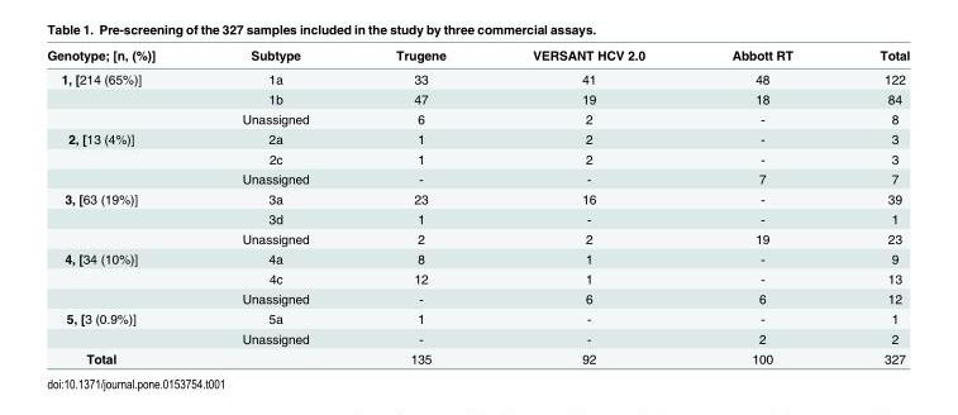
<table><thead><tr><td>Genotype; [n, (%)]</td><td>Subtype</td><td>Trugene</td><td>VERSANT HCV 2.0</td><td>Abbott RT</td><td>Total</td></tr></thead><tbody><tr><td rowspan="3">1, [214 (65%)]</td><td>1a</td><td>33</td><td>41</td><td>48</td><td>122</td></tr><tr><td>1b</td><td>47</td><td>19</td><td>18</td><td>84</td></tr><tr><td>Unassigned</td><td>6</td><td>2</td><td>-</td><td>8</td></tr><tr><td rowspan="3">2, [13 (4%)]</td><td>2a</td><td>1</td><td>2</td><td>-</td><td>3</td></tr><tr><td>2c</td><td>1</td><td>2</td><td>-</td><td>3</td></tr><tr><td>Unassigned</td><td>-</td><td>-</td><td>7</td><td>7</td></tr><tr><td rowspan="3">3, [63 (19%)]</td><td>3a</td><td>23</td><td>16</td><td>-</td><td>39</td></tr><tr><td>3d</td><td>1</td><td>-</td><td>-</td><td>1</td></tr><tr><td>Unassigned</td><td>2</td><td>2</td><td>19</td><td>23</td></tr><tr><td rowspan="3">4, [34 (10%)]</td><td>4a</td><td>8</td><td>1</td><td>-</td><td>9</td></tr><tr><td>4c</td><td>12</td><td>1</td><td>-</td><td>13</td></tr><tr><td>Unassigned</td><td>-</td><td>6</td><td>6</td><td>12</td></tr><tr><td rowspan="2">5, [3 (0.9%)]</td><td>5a</td><td>1</td><td>-</td><td>-</td><td>1</td></tr><tr><td>Unassigned</td><td>-</td><td>-</td><td>2</td><td>2</td></tr><tr><td>Total</td><td></td><td>135</td><td>92</td><td>100</td><td>327</td></tr></tbody></table>